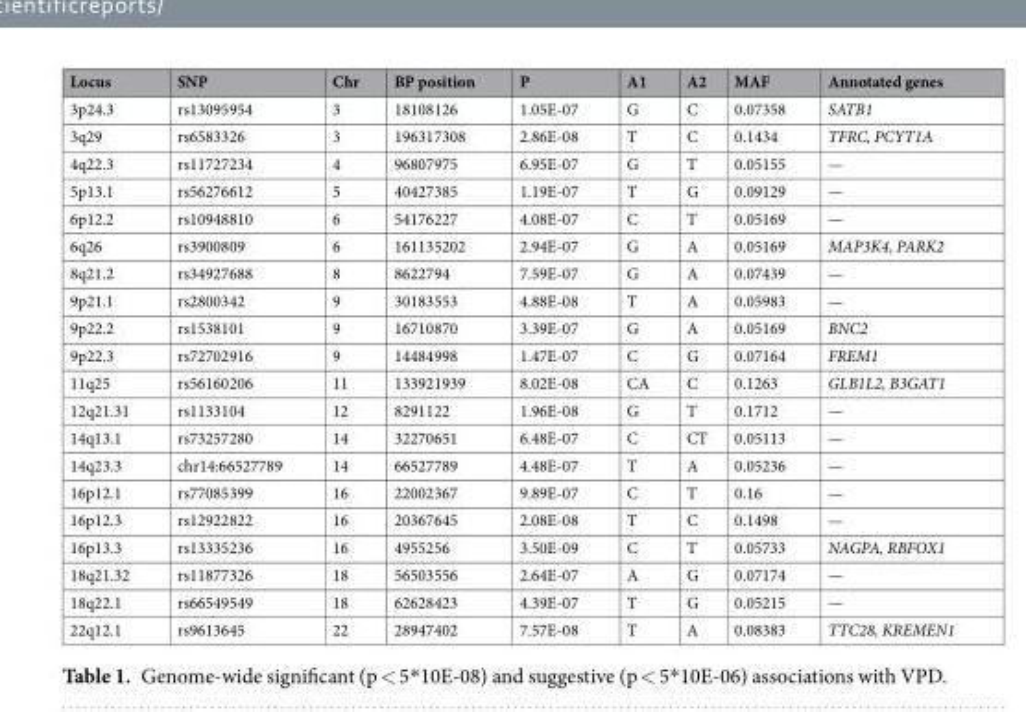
<table><thead><tr><td>Locus</td><td>SNP</td><td>Chr</td><td>BP position</td><td>P</td><td>A1</td><td>A2</td><td>MAF</td><td>Annotated genes</td></tr></thead><tbody><tr><td>3p24.3</td><td>rs13095954</td><td>3</td><td>18108126</td><td>1.05E-07</td><td>G</td><td>C</td><td>0.07358</td><td>SATB1</td></tr><tr><td>3q29</td><td>rs6583326</td><td>3</td><td>196317308</td><td>2.86E-08</td><td>T</td><td>C</td><td>0.1434</td><td>TFRC, PCYT1A</td></tr><tr><td>4q22.3</td><td>rs11727234</td><td>4</td><td>96807975</td><td>6.95E-07</td><td>G</td><td>T</td><td>0.05155</td><td>—</td></tr><tr><td>5p13.1</td><td>rs56276612</td><td>5</td><td>40427385</td><td>1.19E-07</td><td>T</td><td>G</td><td>0.09129</td><td>—</td></tr><tr><td>6p12.2</td><td>rs10948810</td><td>6</td><td>54176227</td><td>4.08E-07</td><td>C</td><td>T</td><td>0.05169</td><td>—</td></tr><tr><td>6q26</td><td>rs3900809</td><td>6</td><td>161135202</td><td>2.94E-07</td><td>G</td><td>A</td><td>0.05169</td><td>MAP3K4, PARK2</td></tr><tr><td>8q21.2</td><td>rs34927688</td><td>8</td><td>8622794</td><td>7.59E-07</td><td>G</td><td>A</td><td>0.07439</td><td>—</td></tr><tr><td>9p21.1</td><td>rs2800342</td><td>9</td><td>30183553</td><td>4.88E-08</td><td>T</td><td>A</td><td>0.05983</td><td>—</td></tr><tr><td>9p22.2</td><td>rs1538101</td><td>9</td><td>16710870</td><td>3.39E-07</td><td>G</td><td>A</td><td>0.05169</td><td>BNC2</td></tr><tr><td>9p22.3</td><td>rs72702916</td><td>9</td><td>14484998</td><td>1.47E-07</td><td>C</td><td>G</td><td>0.07164</td><td>FREM1</td></tr><tr><td>11q25</td><td>rs56160206</td><td>11</td><td>133921939</td><td>8.02E-08</td><td>CA</td><td>C</td><td>0.1263</td><td>GLB1L2, B3GAT1</td></tr><tr><td>12q21.31</td><td>rs1133104</td><td>12</td><td>8291122</td><td>1.96E-08</td><td>G</td><td>T</td><td>0.1712</td><td>—</td></tr><tr><td>14q13.1</td><td>rs73257280</td><td>14</td><td>32270651</td><td>6.48E-07</td><td>C</td><td>CT</td><td>0.05113</td><td>—</td></tr><tr><td>14q23.3</td><td>chr14:66527789</td><td>14</td><td>66527789</td><td>4.48E-07</td><td>T</td><td>A</td><td>0.05236</td><td>—</td></tr><tr><td>16p12.1</td><td>rs77085399</td><td>16</td><td>22002367</td><td>9.89E-07</td><td>C</td><td>T</td><td>0.16</td><td>—</td></tr><tr><td>16p12.3</td><td>rs12922822</td><td>16</td><td>20367645</td><td>2.08E-08</td><td>T</td><td>C</td><td>0.1498</td><td>—</td></tr><tr><td>16p13.3</td><td>rs13335236</td><td>16</td><td>4955256</td><td>3.50E-09</td><td>C</td><td>T</td><td>0.05733</td><td>NAGPA, RBFOX1</td></tr><tr><td>18q21.32</td><td>rs11877326</td><td>18</td><td>56503556</td><td>2.64E-07</td><td>A</td><td>G</td><td>0.07174</td><td>—</td></tr><tr><td>18q22.1</td><td>rs66549549</td><td>18</td><td>62628423</td><td>4.39E-07</td><td>T</td><td>G</td><td>0.05215</td><td>—</td></tr><tr><td>22q12.1</td><td>rs9613645</td><td>22</td><td>28947402</td><td>7.57E-08</td><td>T</td><td>A</td><td>0.08383</td><td>TTC28, KREMEN1</td></tr></tbody></table>